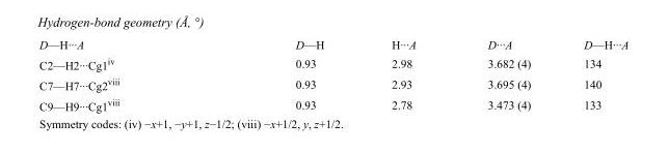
<table><tbody><tr><td>D—H···A</td><td>D—H</td><td>H···A</td><td>D···A</td><td>D—H···A</td></tr><tr><td>C2—H2···Cg1<sup>iv</sup></td><td>0.93</td><td>2.98</td><td>3.682 (4)</td><td>134</td></tr><tr><td>C7—H7···Cg2<sup>viii</sup></td><td>0.93</td><td>2.93</td><td>3.695 (4)</td><td>140</td></tr><tr><td>C9—H9···Cg1<sup>viii</sup></td><td>0.93</td><td>2.78</td><td>3.473 (4)</td><td>133</td></tr></tbody></table>